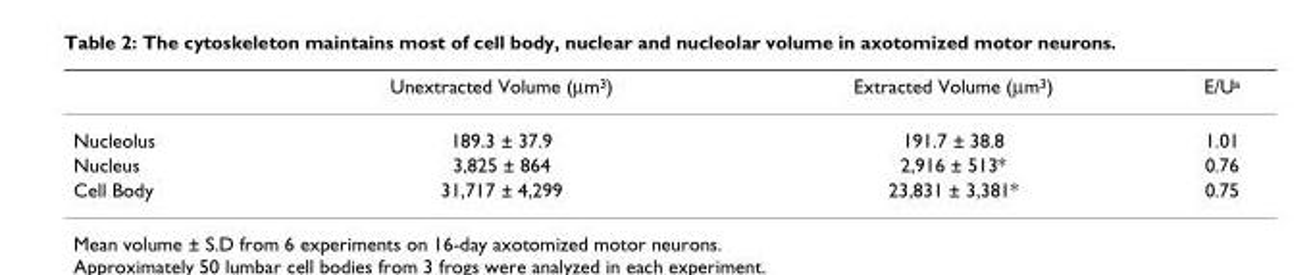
<table><thead><tr><td></td><td>Unextracted Volume (µm3)</td><td>Extracted Volume (µm3)</td><td>E/Ua</td></tr></thead><tbody><tr><td>Nucleolus</td><td>189.3 ± 37.9</td><td>191.7 ± 38.8</td><td>1.01</td></tr><tr><td>Nucleus</td><td>3,825 ± 864</td><td>2,916 ± 513*</td><td>0.76</td></tr><tr><td>Cell Body</td><td>31,717 ± 4,299</td><td>23,831 ± 3,381*</td><td>0.75</td></tr></tbody></table>